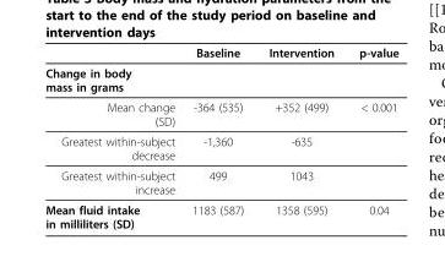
<table><thead><tr><td></td><td>Baseline</td><td>Intervention</td><td>p-value</td></tr></thead><tbody><tr><td colspan="4">Change in body mass in grams</td></tr><tr><td>Mean change (SD)</td><td>-364 (535)</td><td>+352 (499)</td><td>&lt; 0.001</td></tr><tr><td>Greatest within-subject decrease</td><td>-1,360</td><td>-635</td><td></td></tr><tr><td>Greatest within-subject increase</td><td>499</td><td>1043</td><td></td></tr><tr><td>Mean fluid intake in milliliters (SD)</td><td>1183 (587)</td><td>1358 (595)</td><td>0.04</td></tr></tbody></table>